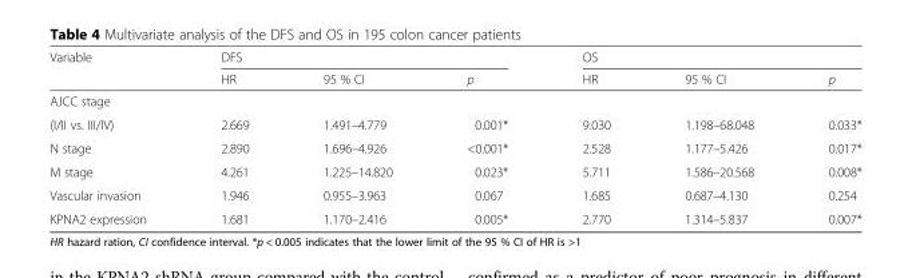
<table><thead><tr><td rowspan="2">Variable</td><td colspan="3">DFS</td><td colspan="3">OS</td></tr><tr><td>HR</td><td>95 % CI</td><td>p</td><td>HR</td><td>95 % CI</td><td>p</td></tr></thead><tbody><tr><td colspan="7">AJCC stage</td></tr><tr><td>(I/II vs. III/IV)</td><td>2.669</td><td>1.491–4.779</td><td>0.001*</td><td>9.030</td><td>1.198–68.048</td><td>0.033*</td></tr><tr><td>N stage</td><td>2.890</td><td>1.696–4.926</td><td>&lt;0.001*</td><td>2.528</td><td>1.177–5.426</td><td>0.017*</td></tr><tr><td>M stage</td><td>4.261</td><td>1.225–14.820</td><td>0.023*</td><td>5.711</td><td>1.586–20.568</td><td>0.008*</td></tr><tr><td>Vascular invasion</td><td>1.946</td><td>0.955–3.963</td><td>0.067</td><td>1.685</td><td>0.687–4.130</td><td>0.254</td></tr><tr><td>KPNA2 expression</td><td>1.681</td><td>1.170–2.416</td><td>0.005*</td><td>2.770</td><td>1.314–5.837</td><td>0.007*</td></tr></tbody></table>